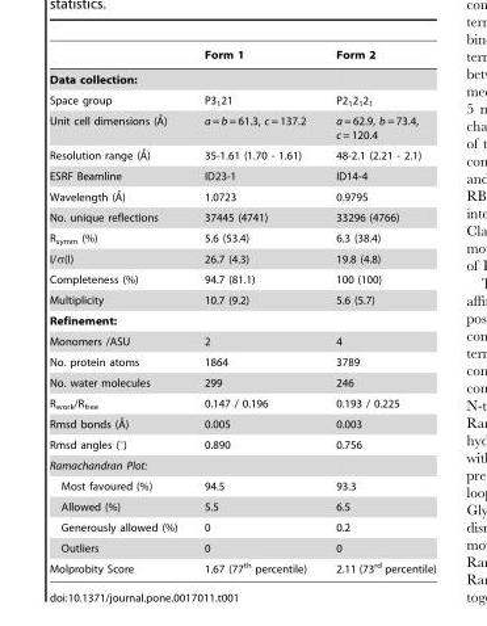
<table><thead><tr><td></td><td>Form 1</td><td>Form 2</td></tr></thead><tbody><tr><td colspan="3">Data collection:</td></tr><tr><td>Space group</td><td>P3<sub>1</sub>21</td><td>P2<sub>1</sub>2<sub>1</sub>2<sub>1</sub></td></tr><tr><td>Unit cell dimensions (A˚)</td><td>a = b = 61.3, c = 137.2</td><td>a = 62.9, b = 73.4, c = 120.4</td></tr><tr><td>Resolution range (A˚)</td><td>35-1.61 (1.70 - 1.61)</td><td>48-2.1 (2.21 - 2.1)</td></tr><tr><td>ESRF Beamline</td><td>ID23-1</td><td>ID14-4</td></tr><tr><td>Wavelength (A˚)</td><td>1.0723</td><td>0.9795</td></tr><tr><td>No. unique reflections</td><td>37445 (4741)</td><td>33296 (4766)</td></tr><tr><td>R<sub>symm</sub> (%)</td><td>5.6 (53.4)</td><td>6.3 (38.4)</td></tr><tr><td>I/σ(I)</td><td>26.7 (4.3)</td><td>19.8 (4.8)</td></tr><tr><td>Completeness (%)</td><td>94.7 (81.1)</td><td>100 (100)</td></tr><tr><td>Multiplicity</td><td>10.7 (9.2)</td><td>5.6 (5.7)</td></tr><tr><td colspan="3">Refinement:</td></tr><tr><td>Monomers /ASU</td><td>2</td><td>4</td></tr><tr><td>No. protein atoms</td><td>1864</td><td>3789</td></tr><tr><td>No. water molecules</td><td>299</td><td>246</td></tr><tr><td>R<sub>work</sub>/R<sub>free</sub></td><td>0.147 / 0.196</td><td>0.193 / 0.225</td></tr><tr><td>Rmsd bonds (A˚)</td><td>0.005</td><td>0.003</td></tr><tr><td>Rmsd angles (°)</td><td>0.890</td><td>0.756</td></tr><tr><td colspan="3">Ramachandran Plot:</td></tr><tr><td>Most favoured (%)</td><td>94.5</td><td>93.3</td></tr><tr><td>Allowed (%)</td><td>5.5</td><td>6.5</td></tr><tr><td>Generously allowed (%)</td><td>0</td><td>0.2</td></tr><tr><td>Outliers</td><td>0</td><td>0</td></tr><tr><td>Molprobity Score</td><td>1.67 (77<sup>th</sup> percentile)</td><td>2.11 (73<sup>rd</sup> percentile)</td></tr></tbody></table>